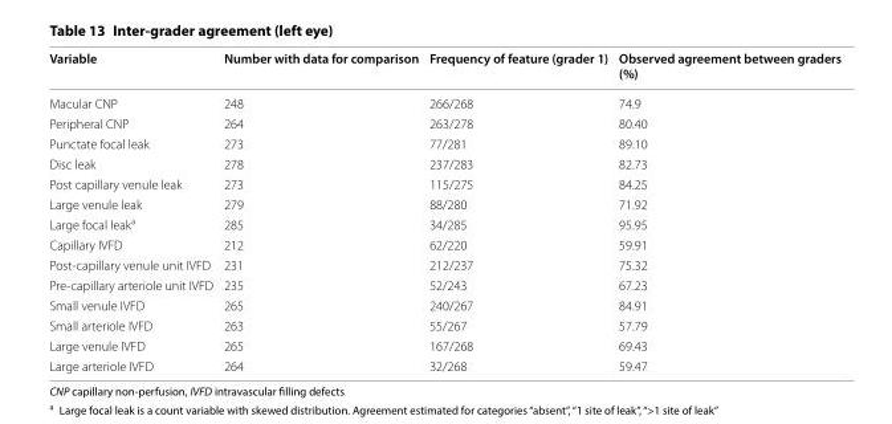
<table><thead><tr><td>Variable</td><td>Number with data for comparison</td><td>Frequency of feature (grader 1)</td><td>Observed agreement between graders (%)</td></tr></thead><tbody><tr><td>Macular CNP</td><td>248</td><td>266/268</td><td>74.9</td></tr><tr><td>Peripheral CNP</td><td>264</td><td>263/278</td><td>80.40</td></tr><tr><td>Punctate focal leak</td><td>273</td><td>77/281</td><td>89.10</td></tr><tr><td>Disc leak</td><td>278</td><td>237/283</td><td>82.73</td></tr><tr><td>Post capillary venule leak</td><td>273</td><td>115/275</td><td>84.25</td></tr><tr><td>Large venule leak</td><td>279</td><td>88/280</td><td>71.92</td></tr><tr><td>Large focal leak<sup>a</sup></td><td>285</td><td>34/285</td><td>95.95</td></tr><tr><td>Capillary IVFD</td><td>212</td><td>62/220</td><td>59.91</td></tr><tr><td>Post-capillary venule unit IVFD</td><td>231</td><td>212/237</td><td>75.32</td></tr><tr><td>Pre-capillary arteriole unit IVFD</td><td>235</td><td>52/243</td><td>67.23</td></tr><tr><td>Small venule IVFD</td><td>265</td><td>240/267</td><td>84.91</td></tr><tr><td>Small arteriole IVFD</td><td>263</td><td>55/267</td><td>57.79</td></tr><tr><td>Large venule IVFD</td><td>265</td><td>167/268</td><td>69.43</td></tr><tr><td>Large arteriole IVFD</td><td>264</td><td>32/268</td><td>59.47</td></tr></tbody></table>